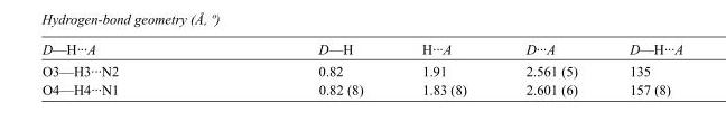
<table><tbody><tr><td>D—H···A</td><td>D—H</td><td>H···A</td><td>D···A</td><td>D—H···A</td></tr><tr><td>O3—H3···N2</td><td>0.82</td><td>1.91</td><td>2.561 (5)</td><td>135</td></tr><tr><td>O4—H4···N1</td><td>0.82 (8)</td><td>1.83 (8)</td><td>2.601 (6)</td><td>157 (8)</td></tr></tbody></table>